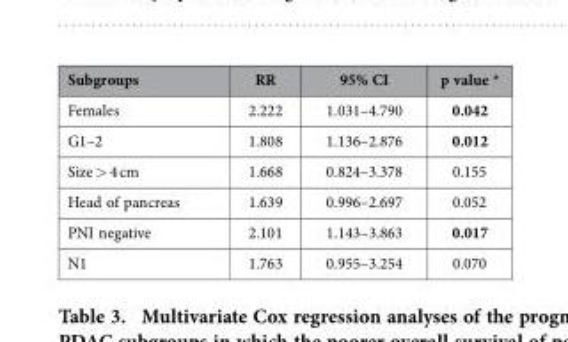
<table><thead><tr><td>Subgroups</td><td>RR</td><td>95% CI</td><td>p value *</td></tr></thead><tbody><tr><td>Females</td><td>2.222</td><td>1.031–4.790</td><td>0.042</td></tr><tr><td>G1–2</td><td>1.808</td><td>1.136–2.876</td><td>0.012</td></tr><tr><td>Size &gt; 4 cm</td><td>1.668</td><td>0.824–3.378</td><td>0.155</td></tr><tr><td>Head of pancreas</td><td>1.639</td><td>0.996–2.697</td><td>0.052</td></tr><tr><td>PNI negative</td><td>2.101</td><td>1.143–3.863</td><td>0.017</td></tr><tr><td>N1</td><td>1.763</td><td>0.955–3.254</td><td>0.070</td></tr></tbody></table>